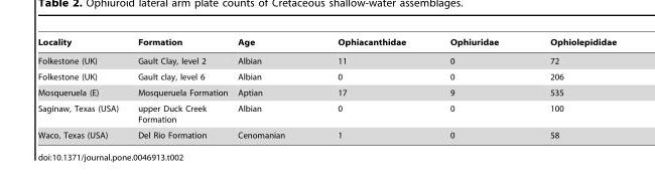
<table><thead><tr><td>Locality</td><td>Formation</td><td>Age</td><td>Ophiacanthidae</td><td>Ophiuridae</td><td>Ophiolepididae</td></tr></thead><tbody><tr><td>Folkestone (UK)</td><td>Gault Clay, level 2</td><td>Albian</td><td>11</td><td>0</td><td>72</td></tr><tr><td>Folkestone (UK)</td><td>Gault clay, level 6</td><td>Albian</td><td>0</td><td>0</td><td>206</td></tr><tr><td>Mosqueruela (E)</td><td>Mosqueruela Formation</td><td>Aptian</td><td>17</td><td>9</td><td>535</td></tr><tr><td>Saginaw, Texas (USA)</td><td>upper Duck Creek Formation</td><td>Albian</td><td>0</td><td>0</td><td>100</td></tr><tr><td>Waco, Texas (USA)</td><td>Del Rio Formation</td><td>Cenomanian</td><td>1</td><td>0</td><td>58</td></tr></tbody></table>